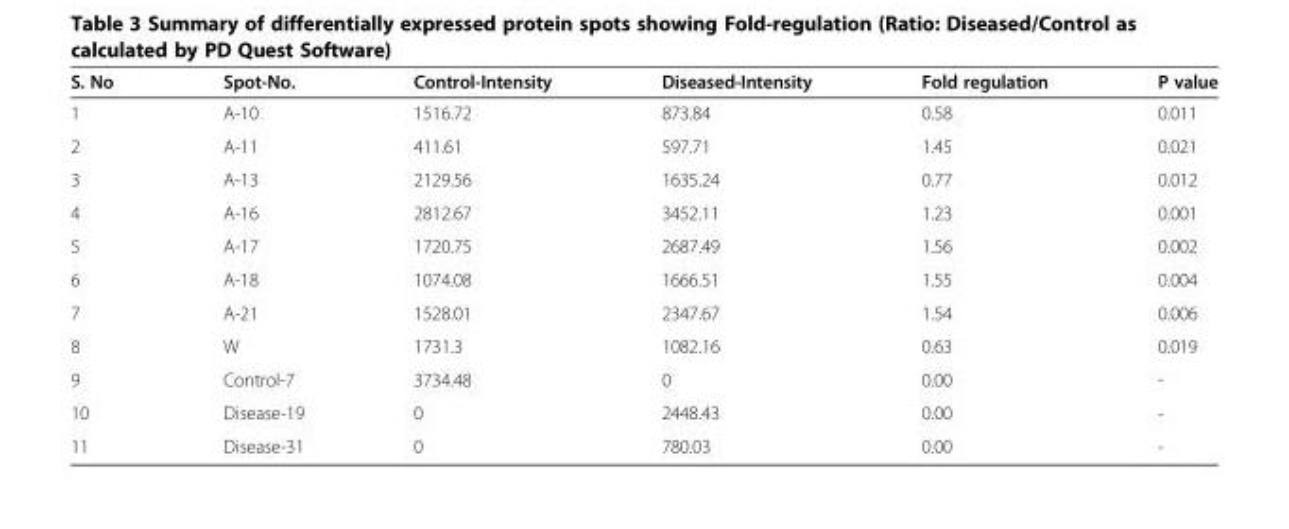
<table><thead><tr><td>S. No</td><td>Spot-No.</td><td>Control-Intensity</td><td>Diseased-Intensity</td><td>Fold regulation</td><td>P value</td></tr></thead><tbody><tr><td>1</td><td>A-10</td><td>1516.72</td><td>873.84</td><td>0.58</td><td>0.011</td></tr><tr><td>2</td><td>A-11</td><td>411.61</td><td>597.71</td><td>1.45</td><td>0.021</td></tr><tr><td>3</td><td>A-13</td><td>2129.56</td><td>1635.24</td><td>0.77</td><td>0.012</td></tr><tr><td>4</td><td>A-16</td><td>2812.67</td><td>3452.11</td><td>1.23</td><td>0.001</td></tr><tr><td>5</td><td>A-17</td><td>1720.75</td><td>2687.49</td><td>1.56</td><td>0.002</td></tr><tr><td>6</td><td>A-18</td><td>1074.08</td><td>1666.51</td><td>1.55</td><td>0.004</td></tr><tr><td>7</td><td>A-21</td><td>1528.01</td><td>2347.67</td><td>1.54</td><td>0.006</td></tr><tr><td>8</td><td>W</td><td>1731.3</td><td>1082.16</td><td>0.63</td><td>0.019</td></tr><tr><td>9</td><td>Control-7</td><td>3734.48</td><td>0</td><td>0.00</td><td>-</td></tr><tr><td>10</td><td>Disease-19</td><td>0</td><td>2448.43</td><td>0.00</td><td>-</td></tr><tr><td>11</td><td>Disease-31</td><td>0</td><td>780.03</td><td>0.00</td><td>-</td></tr></tbody></table>